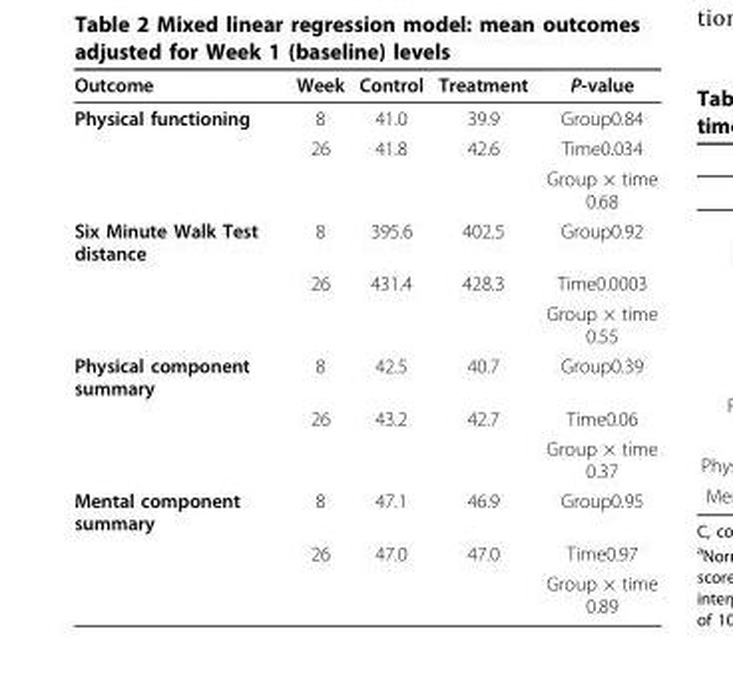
<table><thead><tr><td>Outcome</td><td>Week</td><td>Control</td><td>Treatment</td><td>P-value</td></tr></thead><tbody><tr><td rowspan="3">Physical functioning</td><td>8</td><td>41.0</td><td>39.9</td><td>Group0.84</td></tr><tr><td>26</td><td>41.8</td><td>42.6</td><td>Time0.034</td></tr><tr><td></td><td></td><td></td><td>Group × time 0.68</td></tr><tr><td rowspan="3">Six Minute Walk Test distance</td><td>8</td><td>395.6</td><td>402.5</td><td>Group0.92</td></tr><tr><td>26</td><td>431.4</td><td>428.3</td><td>Time0.0003</td></tr><tr><td></td><td></td><td></td><td>Group × time 0.55</td></tr><tr><td rowspan="3">Physical component summary</td><td>8</td><td>42.5</td><td>40.7</td><td>Group0.39</td></tr><tr><td>26</td><td>43.2</td><td>42.7</td><td>Time0.06</td></tr><tr><td></td><td></td><td></td><td>Group × time 0.37</td></tr><tr><td rowspan="3">Mental component summary</td><td>8</td><td>47.1</td><td>46.9</td><td>Group0.95</td></tr><tr><td>26</td><td>47.0</td><td>47.0</td><td>Time0.97</td></tr><tr><td></td><td></td><td></td><td>Group × time 0.89</td></tr></tbody></table>